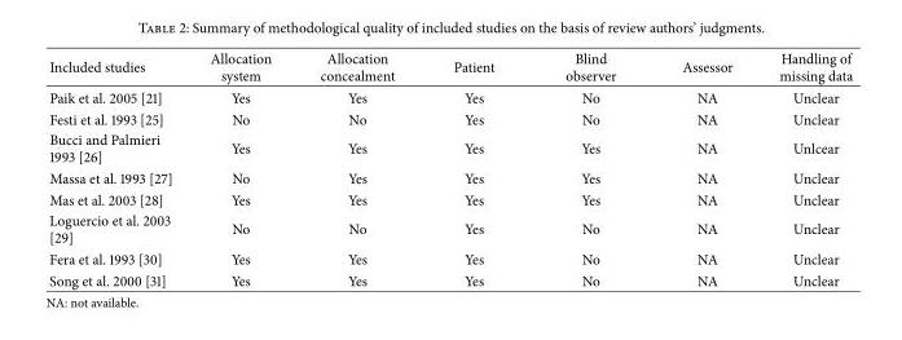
<table><thead><tr><td>Included studies</td><td>Allocation system</td><td>Allocation concealment</td><td>Patient</td><td>Blind observer</td><td>Assessor</td><td>Handling of missing data</td></tr></thead><tbody><tr><td>Paik et al. 2005 [21]</td><td>Yes</td><td>Yes</td><td>Yes</td><td>No</td><td>NA</td><td>Unclear</td></tr><tr><td>Festi et al. 1993 [25]</td><td>No</td><td>No</td><td>Yes</td><td>No</td><td>NA</td><td>Unclear</td></tr><tr><td>Bucci and Palmieri 1993 [26]</td><td>Yes</td><td>Yes</td><td>Yes</td><td>Yes</td><td>NA</td><td>Unlcear</td></tr><tr><td>Massa et al. 1993 [27]</td><td>No</td><td>Yes</td><td>Yes</td><td>Yes</td><td>NA</td><td>Unclear</td></tr><tr><td>Mas et al. 2003 [28]</td><td>Yes</td><td>Yes</td><td>Yes</td><td>Yes</td><td>NA</td><td>Unclear</td></tr><tr><td>Loguercio et al. 2003 [29]</td><td>No</td><td>No</td><td>Yes</td><td>No</td><td>NA</td><td>Unclear</td></tr><tr><td>Fera et al. 1993 [30]</td><td>Yes</td><td>Yes</td><td>Yes</td><td>No</td><td>NA</td><td>Unclear</td></tr><tr><td>Song et al. 2000 [31]</td><td>Yes</td><td>Yes</td><td>Yes</td><td>No</td><td>NA</td><td>Unclear</td></tr></tbody></table>